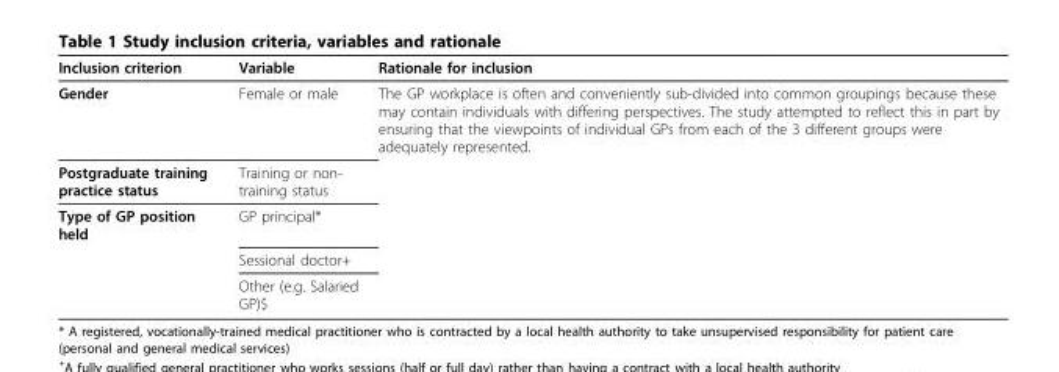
<table><thead><tr><td>Inclusion criterion</td><td>Variable</td><td>Rationale for inclusion</td></tr></thead><tbody><tr><td>Gender</td><td>Female or male</td><td>The GP workplace is often and conveniently sub-divided into common groupings because these may contain individuals with differing perspectives. The study attempted to reflect this in part by ensuring that the viewpoints of individual GPs from each of the 3 different groups were adequately represented.</td></tr><tr><td>Postgraduate training practice status</td><td>Training or non- training status</td><td></td></tr><tr><td rowspan="3">Type of GP position held</td><td>GP principal*</td><td></td></tr><tr><td>Sessional doctor+</td><td></td></tr><tr><td>Other (e.g. Salaried GP)$</td><td></td></tr></tbody></table>